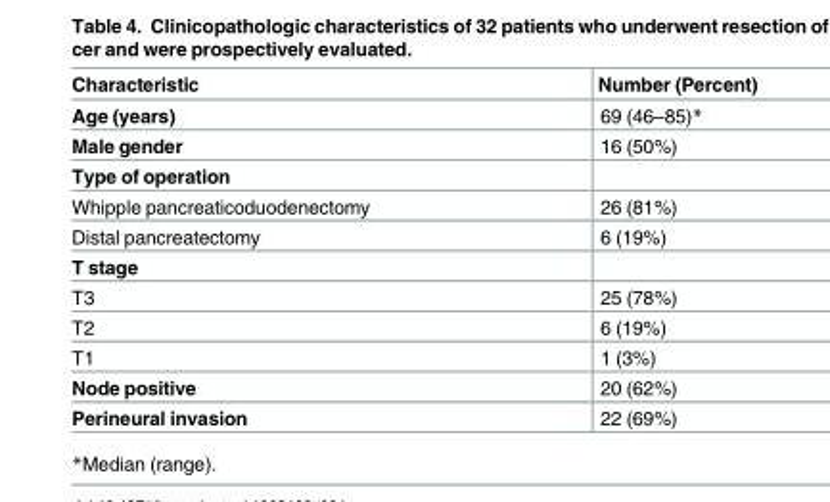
<table><thead><tr><td>Characteristic</td><td>Number (Percent)</td></tr></thead><tbody><tr><td>Age (years)</td><td>69 (46–85)*</td></tr><tr><td>Male gender</td><td>16 (50%)</td></tr><tr><td colspan="2">Type of operation</td></tr><tr><td>Whipple pancreaticoduodenectomy</td><td>26 (81%)</td></tr><tr><td>Distal pancreatectomy</td><td>6 (19%)</td></tr><tr><td colspan="2">T stage</td></tr><tr><td>T3</td><td>25 (78%)</td></tr><tr><td>T2</td><td>6 (19%)</td></tr><tr><td>T1</td><td>1 (3%)</td></tr><tr><td>Node positive</td><td>20 (62%)</td></tr><tr><td>Perineural invasion</td><td>22 (69%)</td></tr></tbody></table>